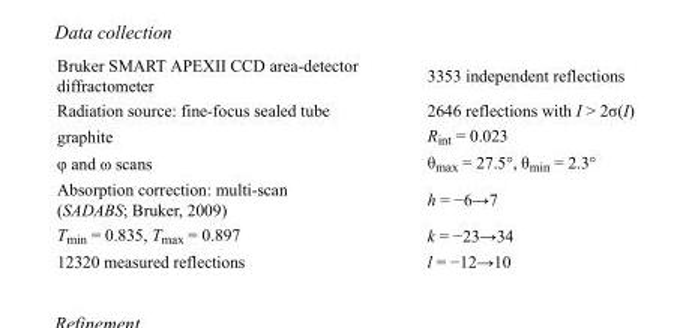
<table><tbody><tr><td>Bruker SMART APEXII CCD area-detector diffractometer</td><td>3353 independent reflections</td></tr><tr><td>Radiation source: fine-focus sealed tube</td><td>2646 reflections with I &gt; 2σ(I)</td></tr><tr><td>graphite</td><td>R<sub>int</sub> = 0.023</td></tr><tr><td>φ and ω scans</td><td>θ<sub>max</sub> = 27.5°, θ<sub>min</sub> = 2.3°</td></tr><tr><td>Absorption correction: multi-scan (SADABS; Bruker, 2009)</td><td>h = −6→7</td></tr><tr><td>T<sub>min</sub> = 0.835, T<sub>max</sub> = 0.897</td><td>k = −23→34</td></tr><tr><td>12320 measured reflections</td><td>l = −12→10</td></tr></tbody></table>